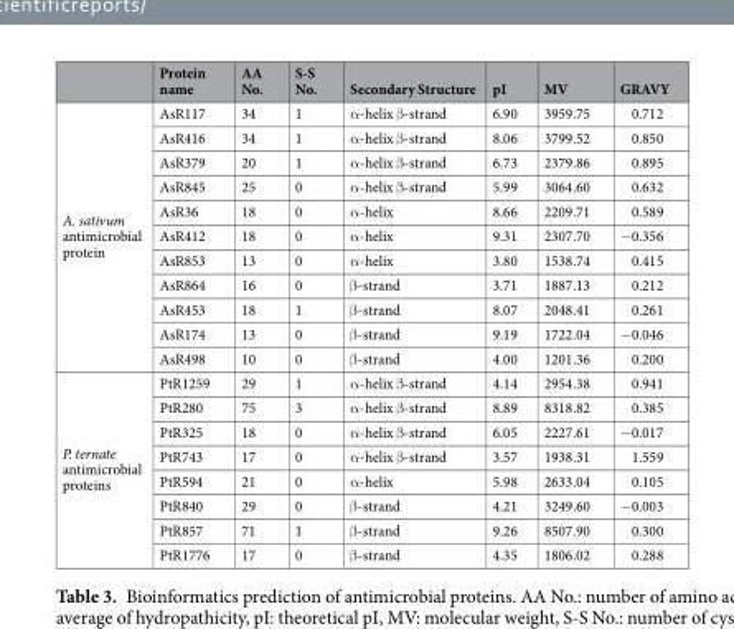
<table><thead><tr><td></td><td>Protein name</td><td>AA No.</td><td>S-S No.</td><td>Secondary Structure</td><td>pI</td><td>MV</td><td>GRAVY</td></tr></thead><tbody><tr><td rowspan="11">A. sativum antimicrobial protein</td><td>AsR117</td><td>34</td><td>1</td><td>α-helix β-strand</td><td>6.90</td><td>3959.75</td><td>0.712</td></tr><tr><td>AsR416</td><td>34</td><td>1</td><td>α-helix β-strand</td><td>8.06</td><td>3799.52</td><td>0.850</td></tr><tr><td>AsR379</td><td>20</td><td>1</td><td>α-helix β-strand</td><td>6.73</td><td>2379.86</td><td>0.895</td></tr><tr><td>AsR845</td><td>25</td><td>0</td><td>α-helix β-strand</td><td>5.99</td><td>3064.60</td><td>0.632</td></tr><tr><td>AsR36</td><td>18</td><td>0</td><td>α-helix</td><td>8.66</td><td>2209.71</td><td>0.589</td></tr><tr><td>AsR412</td><td>18</td><td>0</td><td>α-helix</td><td>9.31</td><td>2307.70</td><td>−0.356</td></tr><tr><td>AsR853</td><td>13</td><td>0</td><td>α-helix</td><td>3.80</td><td>1538.74</td><td>0.415</td></tr><tr><td>AsR864</td><td>16</td><td>0</td><td>β-strand</td><td>3.71</td><td>1887.13</td><td>0.212</td></tr><tr><td>AsR453</td><td>18</td><td>1</td><td>β-strand</td><td>8.07</td><td>2048.41</td><td>0.261</td></tr><tr><td>AsR174</td><td>13</td><td>0</td><td>β-strand</td><td>9.19</td><td>1722.04</td><td>−0.046</td></tr><tr><td>AsR498</td><td>10</td><td>0</td><td>β-strand</td><td>4.00</td><td>1201.36</td><td>0.200</td></tr><tr><td rowspan="8">P. ternate antimicrobial proteins</td><td>PtR1259</td><td>29</td><td>1</td><td>α-helix β-strand</td><td>4.14</td><td>2954.38</td><td>0.941</td></tr><tr><td>PtR280</td><td>75</td><td>3</td><td>α-helix β-strand</td><td>8.89</td><td>8318.82</td><td>0.385</td></tr><tr><td>PtR325</td><td>18</td><td>0</td><td>α-helix β-strand</td><td>6.05</td><td>2227.61</td><td>−0.017</td></tr><tr><td>PtR743</td><td>17</td><td>0</td><td>α-helix β-strand</td><td>3.57</td><td>1938.31</td><td>1.559</td></tr><tr><td>PtR594</td><td>21</td><td>0</td><td>α-helix</td><td>5.98</td><td>2633.04</td><td>0.105</td></tr><tr><td>PtR840</td><td>29</td><td>0</td><td>β-strand</td><td>4.21</td><td>3249.60</td><td>−0.003</td></tr><tr><td>PtR857</td><td>71</td><td>1</td><td>β-strand</td><td>9.26</td><td>8507.90</td><td>0.300</td></tr><tr><td>PtR1776</td><td>17</td><td>0</td><td>β-strand</td><td>4.35</td><td>1806.02</td><td>0.288</td></tr></tbody></table>